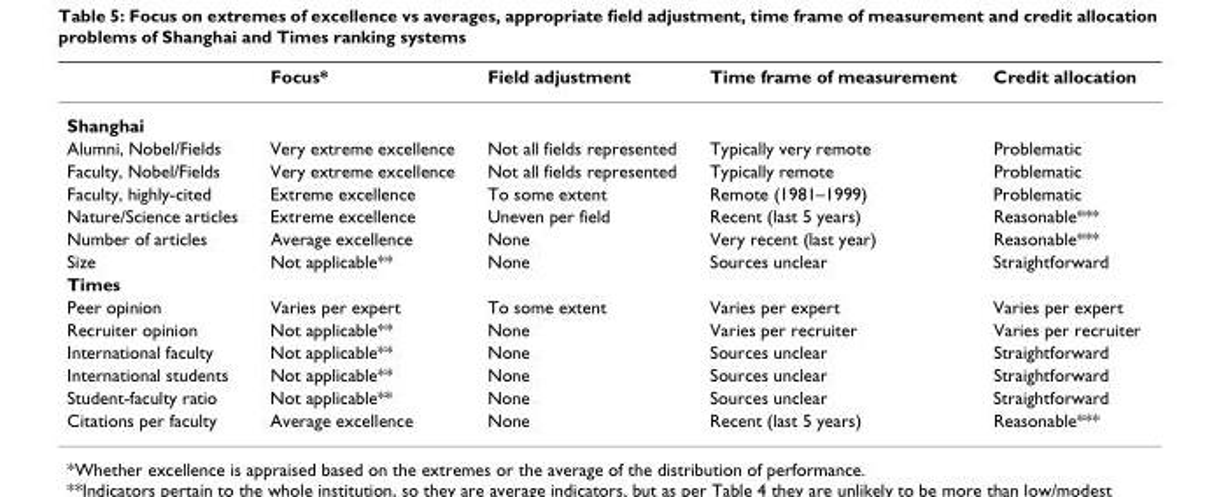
<table><thead><tr><td></td><td>Focus*</td><td>Field adjustment</td><td>Time frame of measurement</td><td>Credit allocation</td></tr></thead><tbody><tr><td colspan="5">Shanghai</td></tr><tr><td>Alumni, Nobel/Fields</td><td>Very extreme excellence</td><td>Not all fields represented</td><td>Typically very remote</td><td>Problematic</td></tr><tr><td>Faculty, Nobel/Fields</td><td>Very extreme excellence</td><td>Not all fields represented</td><td>Typically remote</td><td>Problematic</td></tr><tr><td>Faculty, highly-cited</td><td>Extreme excellence</td><td>To some extent</td><td>Remote (1981–1999)</td><td>Problematic</td></tr><tr><td>Nature/Science articles</td><td>Extreme excellence</td><td>Uneven per field</td><td>Recent (last 5 years)</td><td>Reasonable***</td></tr><tr><td>Number of articles</td><td>Average excellence</td><td>None</td><td>Very recent (last year)</td><td>Reasonable***</td></tr><tr><td>Size</td><td>Not applicable**</td><td>None</td><td>Sources unclear</td><td>Straightforward</td></tr><tr><td colspan="5">Times</td></tr><tr><td>Peer opinion</td><td>Varies per expert</td><td>To some extent</td><td>Varies per expert</td><td>Varies per expert</td></tr><tr><td>Recruiter opinion</td><td>Not applicable**</td><td>None</td><td>Varies per recruiter</td><td>Varies per recruiter</td></tr><tr><td>International faculty</td><td>Not applicable**</td><td>None</td><td>Sources unclear</td><td>Straightforward</td></tr><tr><td>International students</td><td>Not applicable**</td><td>None</td><td>Sources unclear</td><td>Straightforward</td></tr><tr><td>Student-faculty ratio</td><td>Not applicable**</td><td>None</td><td>Sources unclear</td><td>Straightforward</td></tr><tr><td>Citations per faculty</td><td>Average excellence</td><td>None</td><td>Recent (last 5 years)</td><td>Reasonable***</td></tr></tbody></table>